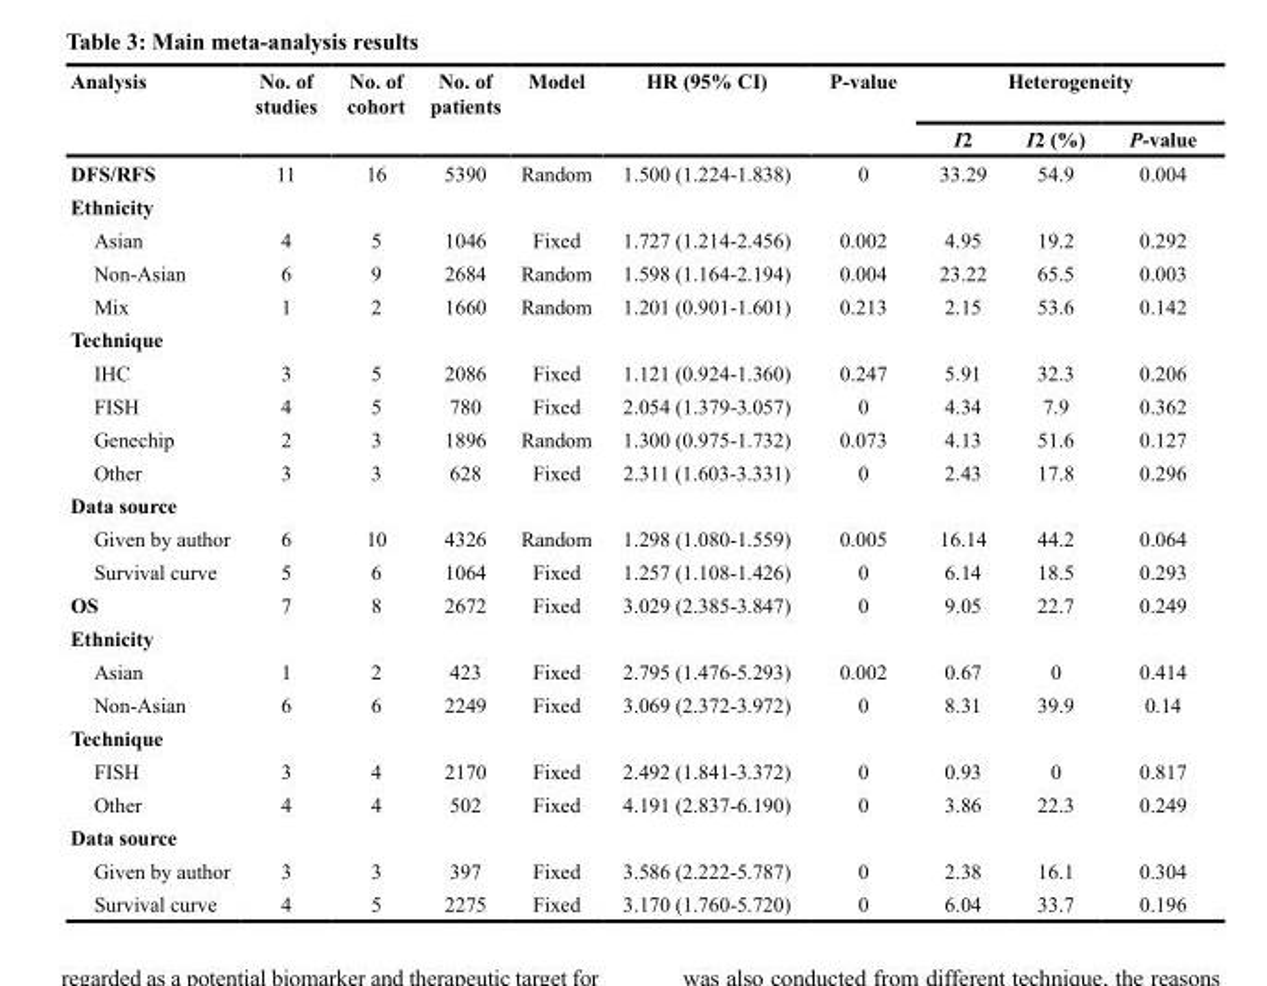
<table><thead><tr><td rowspan="2">Analysis</td><td rowspan="2">No. of studies</td><td rowspan="2">No. of cohort</td><td rowspan="2">No. of patients</td><td rowspan="2">Model</td><td rowspan="2">HR (95% CI)</td><td rowspan="2">P-value</td><td colspan="3">Heterogeneity</td></tr><tr><td>I2</td><td>I2 (%)</td><td>P-value</td></tr></thead><tbody><tr><td>DFS/RFS</td><td>11</td><td>16</td><td>5390</td><td>Random</td><td>1.500 (1.224-1.838)</td><td>0</td><td>33.29</td><td>54.9</td><td>0.004</td></tr><tr><td colspan="10">Ethnicity</td></tr><tr><td>Asian</td><td>4</td><td>5</td><td>1046</td><td>Fixed</td><td>1.727 (1.214-2.456)</td><td>0.002</td><td>4.95</td><td>19.2</td><td>0.292</td></tr><tr><td>Non-Asian</td><td>6</td><td>9</td><td>2684</td><td>Random</td><td>1.598 (1.164-2.194)</td><td>0.004</td><td>23.22</td><td>65.5</td><td>0.003</td></tr><tr><td>Mix</td><td>1</td><td>2</td><td>1660</td><td>Random</td><td>1.201 (0.901-1.601)</td><td>0.213</td><td>2.15</td><td>53.6</td><td>0.142</td></tr><tr><td colspan="10">Technique</td></tr><tr><td>IHC</td><td>3</td><td>5</td><td>2086</td><td>Fixed</td><td>1.121 (0.924-1.360)</td><td>0.247</td><td>5.91</td><td>32.3</td><td>0.206</td></tr><tr><td>FISH</td><td>4</td><td>5</td><td>780</td><td>Fixed</td><td>2.054 (1.379-3.057)</td><td>0</td><td>4.34</td><td>7.9</td><td>0.362</td></tr><tr><td>Genechip</td><td>2</td><td>3</td><td>1896</td><td>Random</td><td>1.300 (0.975-1.732)</td><td>0.073</td><td>4.13</td><td>51.6</td><td>0.127</td></tr><tr><td>Other</td><td>3</td><td>3</td><td>628</td><td>Fixed</td><td>2.311 (1.603-3.331)</td><td>0</td><td>2.43</td><td>17.8</td><td>0.296</td></tr><tr><td colspan="10">Data source</td></tr><tr><td>Given by author</td><td>6</td><td>10</td><td>4326</td><td>Random</td><td>1.298 (1.080-1.559)</td><td>0.005</td><td>16.14</td><td>44.2</td><td>0.064</td></tr><tr><td>Survival curve</td><td>5</td><td>6</td><td>1064</td><td>Fixed</td><td>1.257 (1.108-1.426)</td><td>0</td><td>6.14</td><td>18.5</td><td>0.293</td></tr><tr><td>OS</td><td>7</td><td>8</td><td>2672</td><td>Fixed</td><td>3.029 (2.385-3.847)</td><td>0</td><td>9.05</td><td>22.7</td><td>0.249</td></tr><tr><td colspan="10">Ethnicity</td></tr><tr><td>Asian</td><td>1</td><td>2</td><td>423</td><td>Fixed</td><td>2.795 (1.476-5.293)</td><td>0.002</td><td>0.67</td><td>0</td><td>0.414</td></tr><tr><td>Non-Asian</td><td>6</td><td>6</td><td>2249</td><td>Fixed</td><td>3.069 (2.372-3.972)</td><td>0</td><td>8.31</td><td>39.9</td><td>0.14</td></tr><tr><td colspan="10">Technique</td></tr><tr><td>FISH</td><td>3</td><td>4</td><td>2170</td><td>Fixed</td><td>2.492 (1.841-3.372)</td><td>0</td><td>0.93</td><td>0</td><td>0.817</td></tr><tr><td>Other</td><td>4</td><td>4</td><td>502</td><td>Fixed</td><td>4.191 (2.837-6.190)</td><td>0</td><td>3.86</td><td>22.3</td><td>0.249</td></tr><tr><td colspan="10">Data source</td></tr><tr><td>Given by author</td><td>3</td><td>3</td><td>397</td><td>Fixed</td><td>3.586 (2.222-5.787)</td><td>0</td><td>2.38</td><td>16.1</td><td>0.304</td></tr><tr><td>Survival curve</td><td>4</td><td>5</td><td>2275</td><td>Fixed</td><td>3.170 (1.760-5.720)</td><td>0</td><td>6.04</td><td>33.7</td><td>0.196</td></tr></tbody></table>